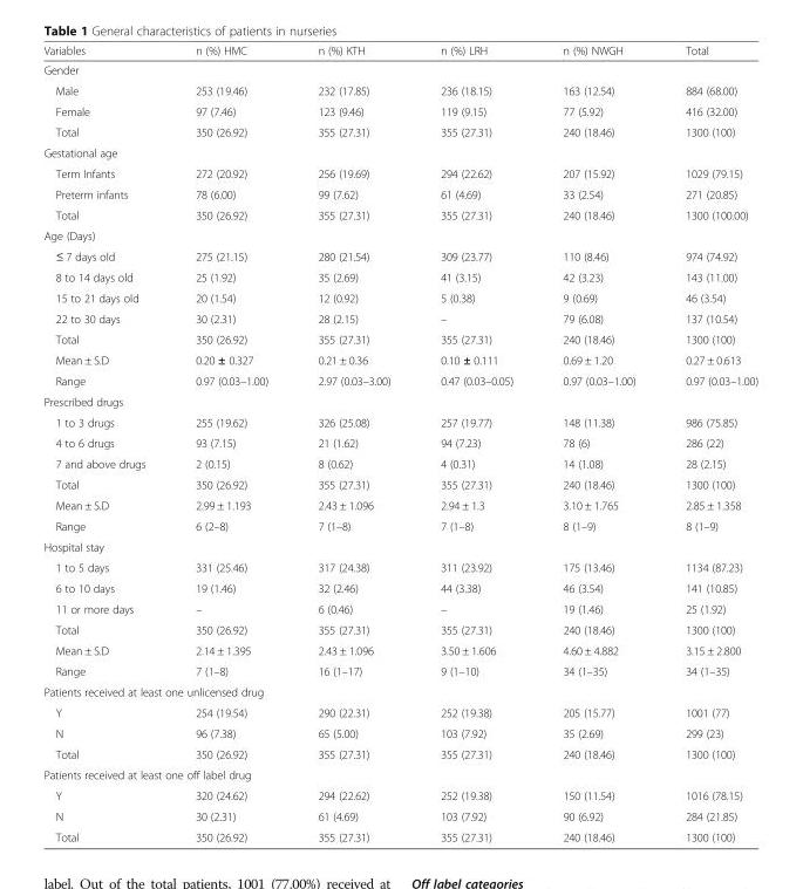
<table><thead><tr><td>Variables</td><td>n (%) HMC</td><td>n (%) KTH</td><td>n (%) LRH</td><td>n (%) NWGH</td><td>Total</td></tr></thead><tbody><tr><td colspan="6">Gender</td></tr><tr><td>Male</td><td>253 (19.46)</td><td>232 (17.85)</td><td>236 (18.15)</td><td>163 (12.54)</td><td>884 (68.00)</td></tr><tr><td>Female</td><td>97 (7.46)</td><td>123 (9.46)</td><td>119 (9.15)</td><td>77 (5.92)</td><td>416 (32.00)</td></tr><tr><td>Total</td><td>350 (26.92)</td><td>355 (27.31)</td><td>355 (27.31)</td><td>240 (18.46)</td><td>1300 (100)</td></tr><tr><td colspan="6">Gestational age</td></tr><tr><td>Term Infants</td><td>272 (20.92)</td><td>256 (19.69)</td><td>294 (22.62)</td><td>207 (15.92)</td><td>1029 (79.15)</td></tr><tr><td>Preterm infants</td><td>78 (6.00)</td><td>99 (7.62)</td><td>61 (4.69)</td><td>33 (2.54)</td><td>271 (20.85)</td></tr><tr><td>Total</td><td>350 (26.92)</td><td>355 (27.31)</td><td>355 (27.31)</td><td>240 (18.46)</td><td>1300 (100.00)</td></tr><tr><td colspan="6">Age (Days)</td></tr><tr><td>≤ 7 days old</td><td>275 (21.15)</td><td>280 (21.54)</td><td>309 (23.77)</td><td>110 (8.46)</td><td>974 (74.92)</td></tr><tr><td>8 to 14 days old</td><td>25 (1.92)</td><td>35 (2.69)</td><td>41 (3.15)</td><td>42 (3.23)</td><td>143 (11.00)</td></tr><tr><td>15 to 21 days old</td><td>20 (1.54)</td><td>12 (0.92)</td><td>5 (0.38)</td><td>9 (0.69)</td><td>46 (3.54)</td></tr><tr><td>22 to 30 days</td><td>30 (2.31)</td><td>28 (2.15)</td><td>–</td><td>79 (6.08)</td><td>137 (10.54)</td></tr><tr><td>Total</td><td>350 (26.92)</td><td>355 (27.31)</td><td>355 (27.31)</td><td>240 (18.46)</td><td>1300 (100)</td></tr><tr><td>Mean ± S.D</td><td>0.20 ± 0.327</td><td>0.21 ± 0.36</td><td>0.10 ± 0.111</td><td>0.69 ± 1.20</td><td>0.27 ± 0.613</td></tr><tr><td>Range</td><td>0.97 (0.03–1.00)</td><td>2.97 (0.03–3.00)</td><td>0.47 (0.03–0.05)</td><td>0.97 (0.03–1.00)</td><td>0.97 (0.03–1.00)</td></tr><tr><td colspan="6">Prescribed drugs</td></tr><tr><td>1 to 3 drugs</td><td>255 (19.62)</td><td>326 (25.08)</td><td>257 (19.77)</td><td>148 (11.38)</td><td>986 (75.85)</td></tr><tr><td>4 to 6 drugs</td><td>93 (7.15)</td><td>21 (1.62)</td><td>94 (7.23)</td><td>78 (6)</td><td>286 (22)</td></tr><tr><td>7 and above drugs</td><td>2 (0.15)</td><td>8 (0.62)</td><td>4 (0.31)</td><td>14 (1.08)</td><td>28 (2.15)</td></tr><tr><td>Total</td><td>350 (26.92)</td><td>355 (27.31)</td><td>355 (27.31)</td><td>240 (18.46)</td><td>1300 (100)</td></tr><tr><td>Mean ± S.D</td><td>2.99 ± 1.193</td><td>2.43 ± 1.096</td><td>2.94 ± 1.3</td><td>3.10 ± 1.765</td><td>2.85 ± 1.358</td></tr><tr><td>Range</td><td>6 (2–8)</td><td>7 (1–8)</td><td>7 (1–8)</td><td>8 (1–9)</td><td>8 (1–9)</td></tr><tr><td colspan="6">Hospital stay</td></tr><tr><td>1 to 5 days</td><td>331 (25.46)</td><td>317 (24.38)</td><td>311 (23.92)</td><td>175 (13.46)</td><td>1134 (87.23)</td></tr><tr><td>6 to 10 days</td><td>19 (1.46)</td><td>32 (2.46)</td><td>44 (3.38)</td><td>46 (3.54)</td><td>141 (10.85)</td></tr><tr><td>11 or more days</td><td>–</td><td>6 (0.46)</td><td>–</td><td>19 (1.46)</td><td>25 (1.92)</td></tr><tr><td>Total</td><td>350 (26.92)</td><td>355 (27.31)</td><td>355 (27.31)</td><td>240 (18.46)</td><td>1300 (100)</td></tr><tr><td>Mean ± S.D</td><td>2.14 ± 1.395</td><td>2.43 ± 1.096</td><td>3.50 ± 1.606</td><td>4.60 ± 4.882</td><td>3.15 ± 2.800</td></tr><tr><td>Range</td><td>7 (1–8)</td><td>16 (1–17)</td><td>9 (1–10)</td><td>34 (1–35)</td><td>34 (1–35)</td></tr><tr><td colspan="6">Patients received at least one unlicensed drug</td></tr><tr><td>Y</td><td>254 (19.54)</td><td>290 (22.31)</td><td>252 (19.38)</td><td>205 (15.77)</td><td>1001 (77)</td></tr><tr><td>N</td><td>96 (7.38)</td><td>65 (5.00)</td><td>103 (7.92)</td><td>35 (2.69)</td><td>299 (23)</td></tr><tr><td>Total</td><td>350 (26.92)</td><td>355 (27.31)</td><td>355 (27.31)</td><td>240 (18.46)</td><td>1300 (100)</td></tr><tr><td colspan="6">Patients received at least one off label drug</td></tr><tr><td>Y</td><td>320 (24.62)</td><td>294 (22.62)</td><td>252 (19.38)</td><td>150 (11.54)</td><td>1016 (78.15)</td></tr><tr><td>N</td><td>30 (2.31)</td><td>61 (4.69)</td><td>103 (7.92)</td><td>90 (6.92)</td><td>284 (21.85)</td></tr><tr><td>Total</td><td>350 (26.92)</td><td>355 (27.31)</td><td>355 (27.31)</td><td>240 (18.46)</td><td>1300 (100)</td></tr></tbody></table>